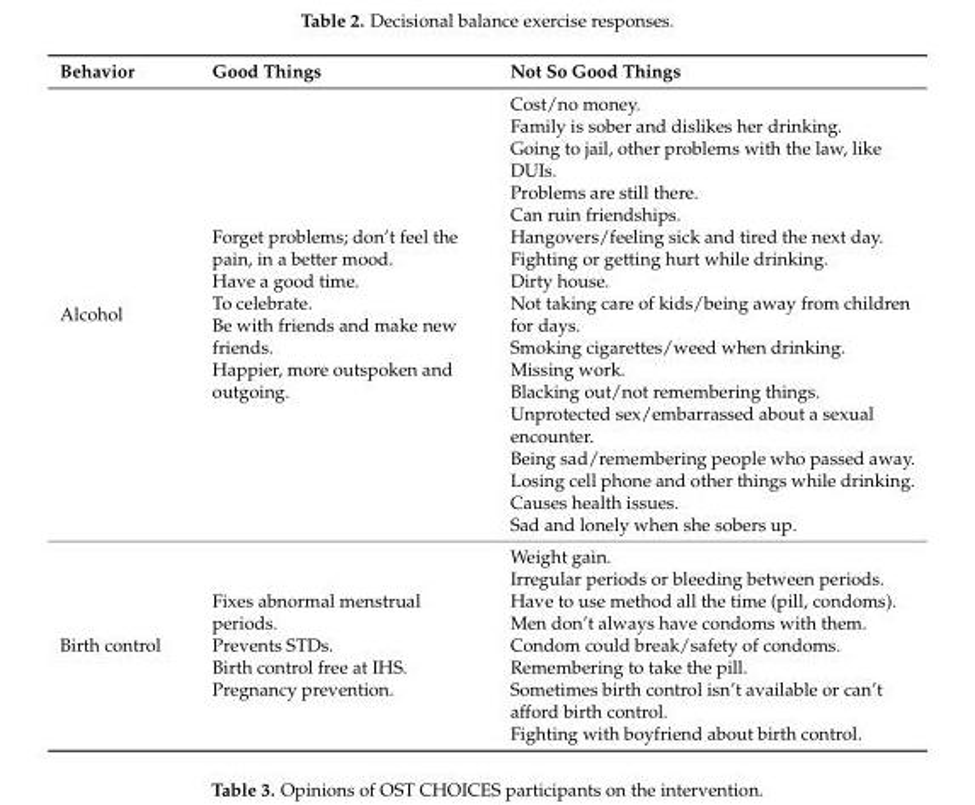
<table><thead><tr><td>Behavior</td><td>Good Things</td><td>Not So Good Things</td></tr></thead><tbody><tr><td>Alcohol</td><td>Forget problems; don’t feel the pain, in a better mood. Have a good time. To celebrate. Be with friends and make new friends. Happier, more outspoken and outgoing.</td><td>Cost/no money. Family is sober and dislikes her drinking. Going to jail, other problems with the law, like DUIs. Problems are still there. Can ruin friendships. Hangovers/feeling sick and tired the next day. Fighting or getting hurt while drinking. Dirty house. Not taking care of kids/being away from children for days. Smoking cigarettes/weed when drinking. Missing work. Blacking out/not remembering things. Unprotected sex/embarrassed about a sexual encounter. Being sad/remembering people who passed away. Losing cell phone and other things while drinking. Causes health issues. Sad and lonely when she sobers up.</td></tr><tr><td>Birth control</td><td>Fixes abnormal menstrual periods. Prevents STDs. Birth control free at IHS. Pregnancy prevention.</td><td>Weight gain. Irregular periods or bleeding between periods. Have to use method all the time (pill, condoms). Men don’t always have condoms with them. Condom could break/safety of condoms. Remembering to take the pill. Sometimes birth control isn’t available or can’t afford birth control. Fighting with boyfriend about birth control.</td></tr></tbody></table>